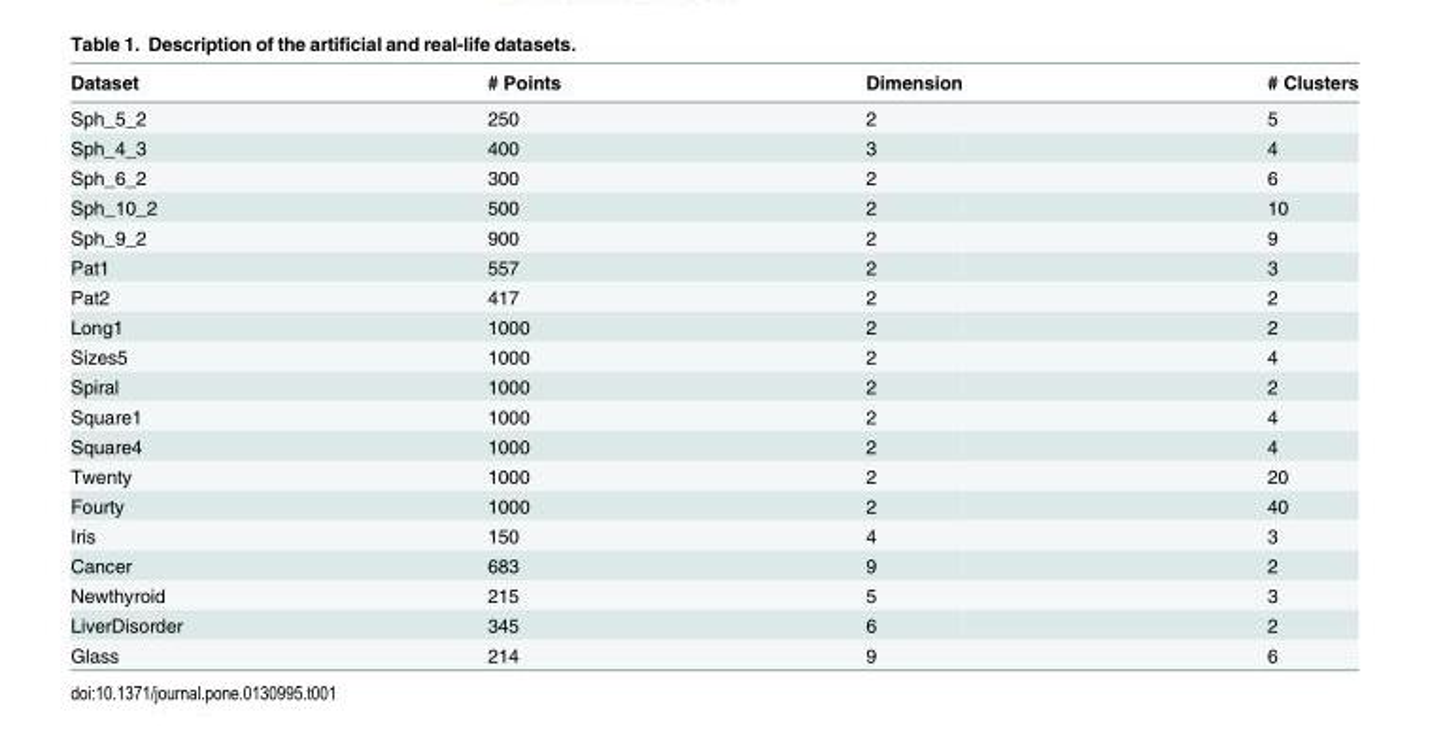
<table><thead><tr><td>Dataset</td><td># Points</td><td>Dimension</td><td># Clusters</td></tr></thead><tbody><tr><td>Sph_5_2</td><td>250</td><td>2</td><td>5</td></tr><tr><td>Sph_4_3</td><td>400</td><td>3</td><td>4</td></tr><tr><td>Sph_6_2</td><td>300</td><td>2</td><td>6</td></tr><tr><td>Sph_10_2</td><td>500</td><td>2</td><td>10</td></tr><tr><td>Sph_9_2</td><td>900</td><td>2</td><td>9</td></tr><tr><td>Pat1</td><td>557</td><td>2</td><td>3</td></tr><tr><td>Pat2</td><td>417</td><td>2</td><td>2</td></tr><tr><td>Long1</td><td>1000</td><td>2</td><td>2</td></tr><tr><td>Sizes5</td><td>1000</td><td>2</td><td>4</td></tr><tr><td>Spiral</td><td>1000</td><td>2</td><td>2</td></tr><tr><td>Square1</td><td>1000</td><td>2</td><td>4</td></tr><tr><td>Square4</td><td>1000</td><td>2</td><td>4</td></tr><tr><td>Twenty</td><td>1000</td><td>2</td><td>20</td></tr><tr><td>Fourty</td><td>1000</td><td>2</td><td>40</td></tr><tr><td>Iris</td><td>150</td><td>4</td><td>3</td></tr><tr><td>Cancer</td><td>683</td><td>9</td><td>2</td></tr><tr><td>Newthyroid</td><td>215</td><td>5</td><td>3</td></tr><tr><td>LiverDisorder</td><td>345</td><td>6</td><td>2</td></tr><tr><td>Glass</td><td>214</td><td>9</td><td>6</td></tr></tbody></table>